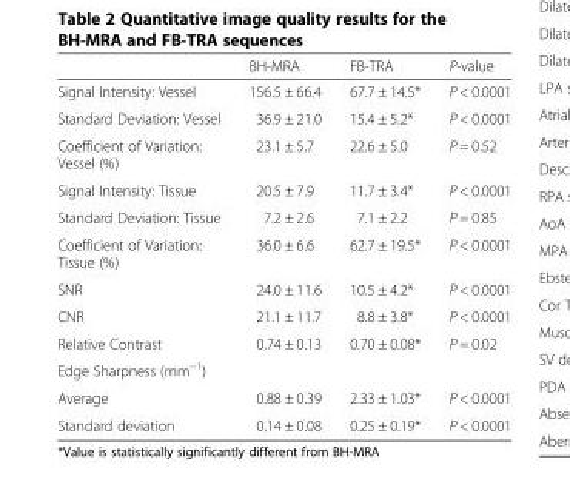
<table><thead><tr><td></td><td>BH-MRA</td><td>FB-TRA</td><td>P-value</td></tr></thead><tbody><tr><td>Signal Intensity: Vessel</td><td>156.5 ± 66.4</td><td>67.7 ± 14.5*</td><td>P &lt; 0.0001</td></tr><tr><td>Standard Deviation: Vessel</td><td>36.9 ± 21.0</td><td>15.4 ± 5.2*</td><td>P &lt; 0.0001</td></tr><tr><td>Coefficient of Variation: Vessel (%)</td><td>23.1 ± 5.7</td><td>22.6 ± 5.0</td><td>P = 0.52</td></tr><tr><td>Signal Intensity: Tissue</td><td>20.5 ± 7.9</td><td>11.7 ± 3.4*</td><td>P &lt; 0.0001</td></tr><tr><td>Standard Deviation: Tissue</td><td>7.2 ± 2.6</td><td>7.1 ± 2.2</td><td>P = 0.85</td></tr><tr><td>Coefficient of Variation: Tissue (%)</td><td>36.0 ± 6.6</td><td>62.7 ± 19.5*</td><td>P &lt; 0.0001</td></tr><tr><td>SNR</td><td>24.0 ± 11.6</td><td>10.5 ± 4.2*</td><td>P &lt; 0.0001</td></tr><tr><td>CNR</td><td>21.1 ± 11.7</td><td>8.8 ± 3.8*</td><td>P &lt; 0.0001</td></tr><tr><td>Relative Contrast</td><td>0.74 ± 0.13</td><td>0.70 ± 0.08*</td><td>P = 0.02</td></tr><tr><td colspan="4">Edge Sharpness (mm<sup>−1</sup>)</td></tr><tr><td>Average</td><td>0.88 ± 0.39</td><td>2.33 ± 1.03*</td><td>P &lt; 0.0001</td></tr><tr><td>Standard deviation</td><td>0.14 ± 0.08</td><td>0.25 ± 0.19*</td><td>P &lt; 0.0001</td></tr></tbody></table>